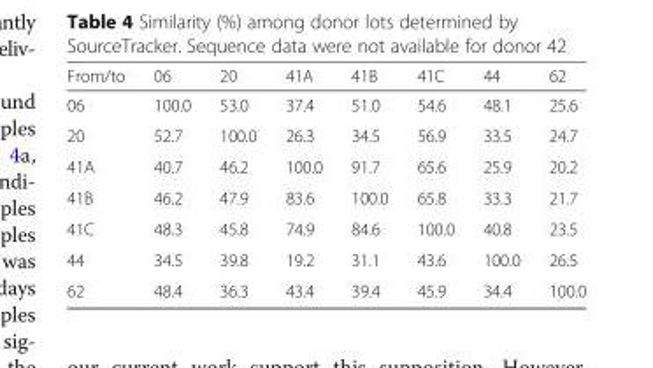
<table><thead><tr><td>From/to</td><td>06</td><td>20</td><td>41A</td><td>41B</td><td>41C</td><td>44</td><td>62</td></tr></thead><tbody><tr><td>06</td><td>100.0</td><td>53.0</td><td>37.4</td><td>51.0</td><td>54.6</td><td>48.1</td><td>25.6</td></tr><tr><td>20</td><td>52.7</td><td>100.0</td><td>26.3</td><td>34.5</td><td>56.9</td><td>33.5</td><td>24.7</td></tr><tr><td>41A</td><td>40.7</td><td>46.2</td><td>100.0</td><td>91.7</td><td>65.6</td><td>25.9</td><td>20.2</td></tr><tr><td>41B</td><td>46.2</td><td>47.9</td><td>83.6</td><td>100.0</td><td>65.8</td><td>33.3</td><td>21.7</td></tr><tr><td>41C</td><td>48.3</td><td>45.8</td><td>74.9</td><td>84.6</td><td>100.0</td><td>40.8</td><td>23.5</td></tr><tr><td>44</td><td>34.5</td><td>39.8</td><td>19.2</td><td>31.1</td><td>43.6</td><td>100.0</td><td>26.5</td></tr><tr><td>62</td><td>48.4</td><td>36.3</td><td>43.4</td><td>39.4</td><td>45.9</td><td>34.4</td><td>100.0</td></tr></tbody></table>